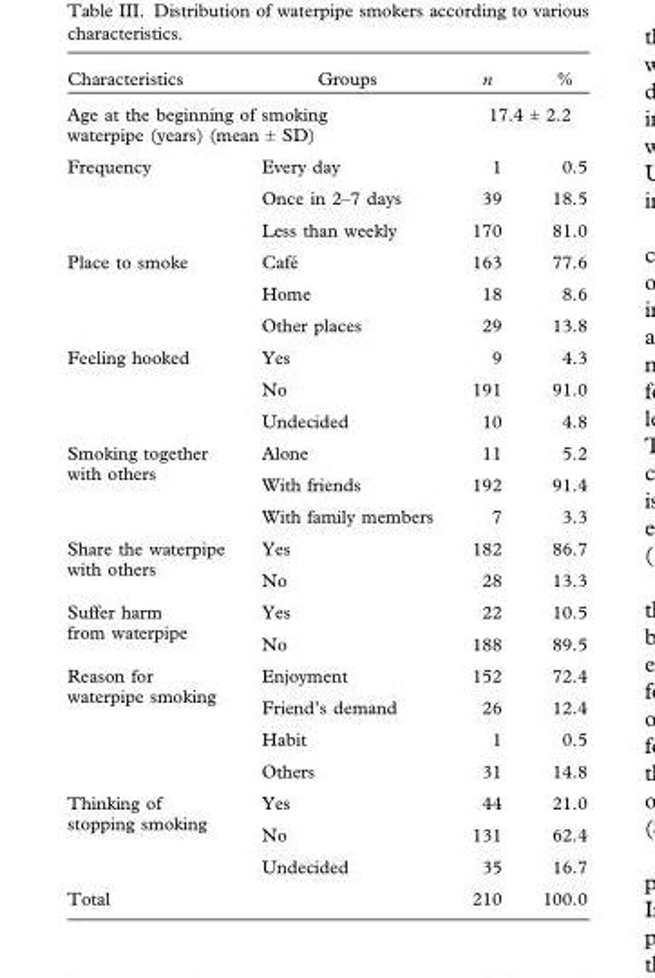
<table><thead><tr><td>Characteristics</td><td>Groups</td><td>n</td><td>%</td></tr></thead><tbody><tr><td colspan="2">Age at the beginning of smoking waterpipe (years) (mean ± SD)</td><td colspan="2">17.4 ± 2.2</td></tr><tr><td rowspan="3">Frequency</td><td>Every day</td><td>1</td><td>0.5</td></tr><tr><td>Once in 2–7 days</td><td>39</td><td>18.5</td></tr><tr><td>Less than weekly</td><td>170</td><td>81.0</td></tr><tr><td rowspan="3">Place to smoke</td><td>Café</td><td>163</td><td>77.6</td></tr><tr><td>Home</td><td>18</td><td>8.6</td></tr><tr><td>Other places</td><td>29</td><td>13.8</td></tr><tr><td rowspan="3">Feeling hooked</td><td>Yes</td><td>9</td><td>4.3</td></tr><tr><td>No</td><td>191</td><td>91.0</td></tr><tr><td>Undecided</td><td>10</td><td>4.8</td></tr><tr><td rowspan="3">Smoking together with others</td><td>Alone</td><td>11</td><td>5.2</td></tr><tr><td>With friends</td><td>192</td><td>91.4</td></tr><tr><td>With family members</td><td>7</td><td>3.3</td></tr><tr><td rowspan="2">Share the waterpipe with others</td><td>Yes</td><td>182</td><td>86.7</td></tr><tr><td>No</td><td>28</td><td>13.3</td></tr><tr><td rowspan="2">Suffer harm from waterpipe</td><td>Yes</td><td>22</td><td>10.5</td></tr><tr><td>No</td><td>188</td><td>89.5</td></tr><tr><td rowspan="4">Reason for waterpipe smoking</td><td>Enjoyment</td><td>152</td><td>72.4</td></tr><tr><td>Friend’s demand</td><td>26</td><td>12.4</td></tr><tr><td>Habit</td><td>1</td><td>0.5</td></tr><tr><td>Others</td><td>31</td><td>14.8</td></tr><tr><td rowspan="3">Thinking of stopping smoking</td><td>Yes</td><td>44</td><td>21.0</td></tr><tr><td>No</td><td>131</td><td>62.4</td></tr><tr><td>Undecided</td><td>35</td><td>16.7</td></tr><tr><td>Total</td><td></td><td>210</td><td>100.0</td></tr></tbody></table>